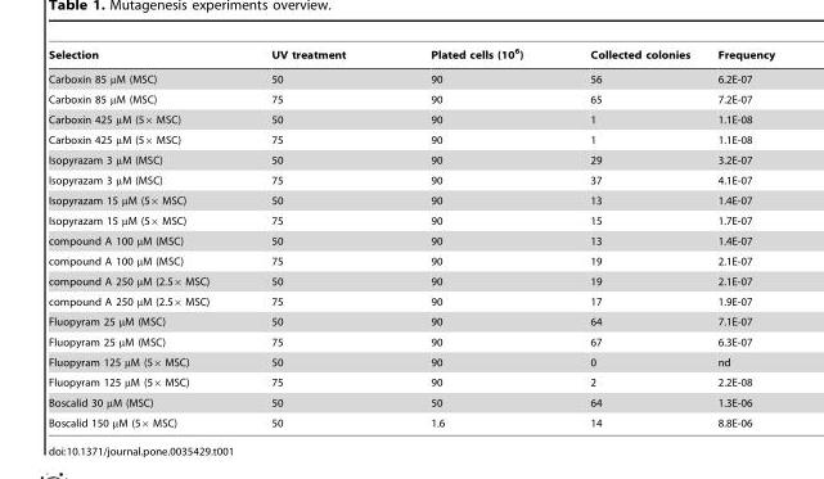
<table><thead><tr><td>Selection</td><td>UV treatment</td><td>Plated cells (10<sup>6</sup>)</td><td>Collected colonies</td><td>Frequency</td></tr></thead><tbody><tr><td>Carboxin 85 µM (MSC)</td><td>50</td><td>90</td><td>56</td><td>6.2E-07</td></tr><tr><td>Carboxin 85 µM (MSC)</td><td>75</td><td>90</td><td>65</td><td>7.2E-07</td></tr><tr><td>Carboxin 425 µM (5× MSC)</td><td>50</td><td>90</td><td>1</td><td>1.1E-08</td></tr><tr><td>Carboxin 425 µM (5× MSC)</td><td>75</td><td>90</td><td>1</td><td>1.1E-08</td></tr><tr><td>Isopyrazam 3 µM (MSC)</td><td>50</td><td>90</td><td>29</td><td>3.2E-07</td></tr><tr><td>Isopyrazam 3 µM (MSC)</td><td>75</td><td>90</td><td>37</td><td>4.1E-07</td></tr><tr><td>Isopyrazam 15 µM (5× MSC)</td><td>50</td><td>90</td><td>13</td><td>1.4E-07</td></tr><tr><td>Isopyrazam 15 µM (5× MSC)</td><td>75</td><td>90</td><td>15</td><td>1.7E-07</td></tr><tr><td>compound A 100 µM (MSC)</td><td>50</td><td>90</td><td>13</td><td>1.4E-07</td></tr><tr><td>compound A 100 µM (MSC)</td><td>75</td><td>90</td><td>19</td><td>2.1E-07</td></tr><tr><td>compound A 250 µM (2.5× MSC)</td><td>50</td><td>90</td><td>19</td><td>2.1E-07</td></tr><tr><td>compound A 250 µM (2.5× MSC)</td><td>75</td><td>90</td><td>17</td><td>1.9E-07</td></tr><tr><td>Fluopyram 25 µM (MSC)</td><td>50</td><td>90</td><td>64</td><td>7.1E-07</td></tr><tr><td>Fluopyram 25 µM (MSC)</td><td>75</td><td>90</td><td>67</td><td>6.3E-07</td></tr><tr><td>Fluopyram 125 µM (5× MSC)</td><td>50</td><td>90</td><td>0</td><td>nd</td></tr><tr><td>Fluopyram 125 µM (5× MSC)</td><td>75</td><td>90</td><td>2</td><td>2.2E-08</td></tr><tr><td>Boscalid 30 µM (MSC)</td><td>50</td><td>50</td><td>64</td><td>1.3E-06</td></tr><tr><td>Boscalid 150 µM (5× MSC)</td><td>50</td><td>1.6</td><td>14</td><td>8.8E-06</td></tr></tbody></table>